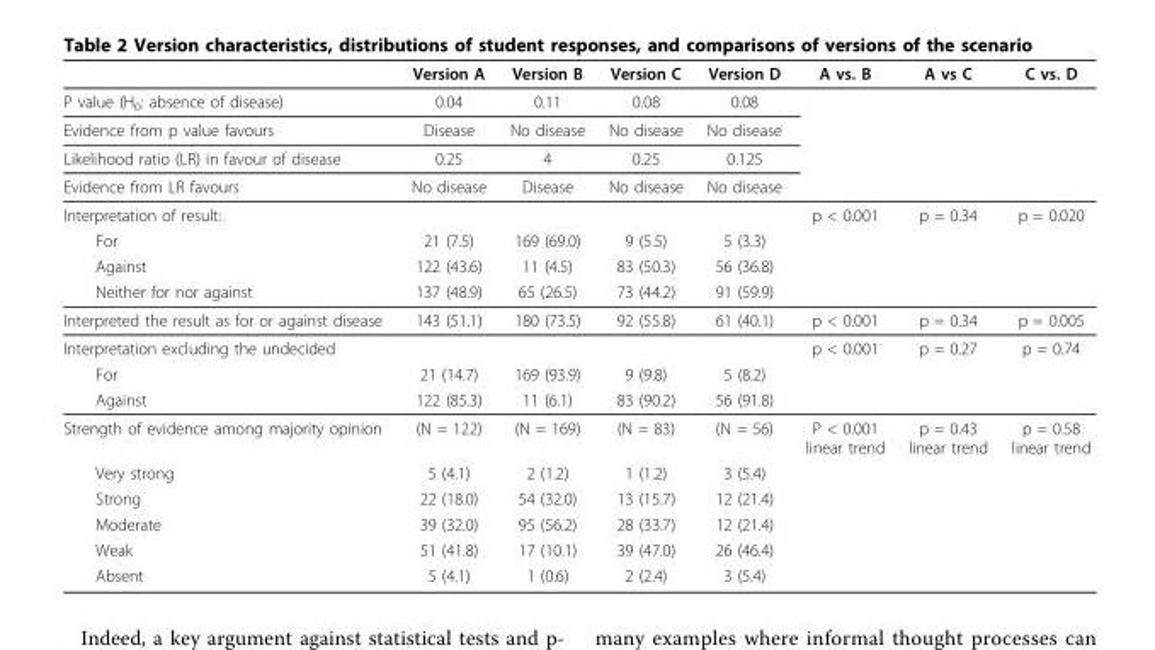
<table><thead><tr><td></td><td>Version A</td><td>Version B</td><td>Version C</td><td>Version D</td><td>A vs. B</td><td>A vs C</td><td>C vs. D</td></tr></thead><tbody><tr><td>P value (H<sub>0</sub>: absence of disease)</td><td>0.04</td><td>0.11</td><td>0.08</td><td>0.08</td><td></td><td></td><td></td></tr><tr><td>Evidence from p value favours</td><td>Disease</td><td>No disease</td><td>No disease</td><td>No disease</td><td></td><td></td><td></td></tr><tr><td>Likelihood ratio (LR) in favour of disease</td><td>0.25</td><td>4</td><td>0.25</td><td>0.125</td><td></td><td></td><td></td></tr><tr><td>Evidence from LR favours</td><td>No disease</td><td>Disease</td><td>No disease</td><td>No disease</td><td></td><td></td><td></td></tr><tr><td>Interpretation of result:</td><td></td><td></td><td></td><td></td><td>p &lt; 0.001</td><td>p = 0.34</td><td>p = 0.020</td></tr><tr><td>For</td><td>21 (7.5)</td><td>169 (69.0)</td><td>9 (5.5)</td><td>5 (3.3)</td><td></td><td></td><td></td></tr><tr><td>Against</td><td>122 (43.6)</td><td>11 (4.5)</td><td>83 (50.3)</td><td>56 (36.8)</td><td></td><td></td><td></td></tr><tr><td>Neither for nor against</td><td>137 (48.9)</td><td>65 (26.5)</td><td>73 (44.2)</td><td>91 (59.9)</td><td></td><td></td><td></td></tr><tr><td>Interpreted the result as for or against disease</td><td>143 (51.1)</td><td>180 (73.5)</td><td>92 (55.8)</td><td>61 (40.1)</td><td>p &lt; 0.001</td><td>p = 0.34</td><td>p = 0.005</td></tr><tr><td>Interpretation excluding the undecided</td><td></td><td></td><td></td><td></td><td>p &lt; 0.001</td><td>p = 0.27</td><td>p = 0.74</td></tr><tr><td>For</td><td>21 (14.7)</td><td>169 (93.9)</td><td>9 (9.8)</td><td>5 (8.2)</td><td></td><td></td><td></td></tr><tr><td>Against</td><td>122 (85.3)</td><td>11 (6.1)</td><td>83 (90.2)</td><td>56 (91.8)</td><td></td><td></td><td></td></tr><tr><td>Strength of evidence among majority opinion</td><td>(N = 122)</td><td>(N = 169)</td><td>(N = 83)</td><td>(N = 56)</td><td>P &lt; 0.001 linear trend</td><td>p = 0.43 linear trend</td><td>p = 0.58 linear trend</td></tr><tr><td>Very strong</td><td>5 (4.1)</td><td>2 (1.2)</td><td>1 (1.2)</td><td>3 (5.4)</td><td></td><td></td><td></td></tr><tr><td>Strong</td><td>22 (18.0)</td><td>54 (32.0)</td><td>13 (15.7)</td><td>12 (21.4)</td><td></td><td></td><td></td></tr><tr><td>Moderate</td><td>39 (32.0)</td><td>95 (56.2)</td><td>28 (33.7)</td><td>12 (21.4)</td><td></td><td></td><td></td></tr><tr><td>Weak</td><td>51 (41.8)</td><td>17 (10.1)</td><td>39 (47.0)</td><td>26 (46.4)</td><td></td><td></td><td></td></tr><tr><td>Absent</td><td>5 (4.1)</td><td>1 (0.6)</td><td>2 (2.4)</td><td>3 (5.4)</td><td></td><td></td><td></td></tr></tbody></table>